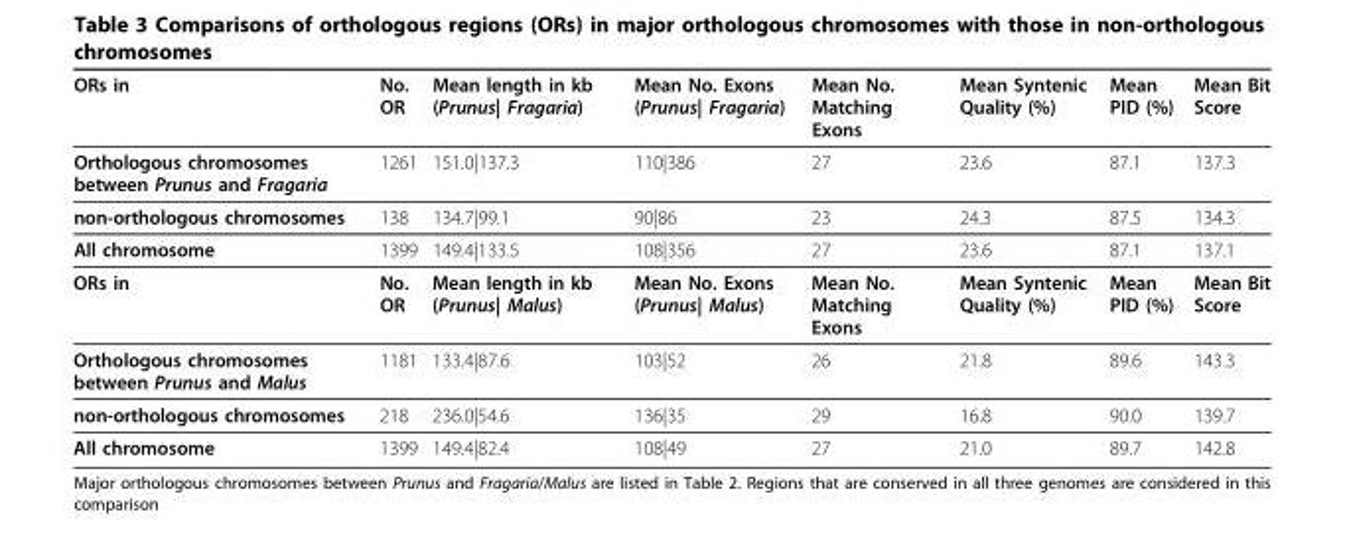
<table><thead><tr><td>ORs in</td><td>No. OR</td><td>Mean length in kb (Prunus| Fragaria)</td><td>Mean No. Exons (Prunus| Fragaria)</td><td>Mean No. Matching Exons</td><td>Mean Syntenic Quality (%)</td><td>Mean PID (%)</td><td>Mean Bit Score</td></tr></thead><tbody><tr><td>Orthologous chromosomes between Prunus and Fragaria</td><td>1261</td><td>151.0|137.3</td><td>110|386</td><td>27</td><td>23.6</td><td>87.1</td><td>137.3</td></tr><tr><td>non-orthologous chromosomes</td><td>138</td><td>134.7|99.1</td><td>90|86</td><td>23</td><td>24.3</td><td>87.5</td><td>134.3</td></tr><tr><td>All chromosome</td><td>1399</td><td>149.4|133.5</td><td>108|356</td><td>27</td><td>23.6</td><td>87.1</td><td>137.1</td></tr><tr><td>ORs in</td><td>No. OR</td><td>Mean length in kb (Prunus| Malus)</td><td>Mean No. Exons (Prunus| Malus)</td><td>Mean No. Matching Exons</td><td>Mean Syntenic Quality (%)</td><td>Mean PID (%)</td><td>Mean Bit Score</td></tr><tr><td>Orthologous chromosomes between Prunus and Malus</td><td>1181</td><td>133.4|87.6</td><td>103|52</td><td>26</td><td>21.8</td><td>89.6</td><td>143.3</td></tr><tr><td>non-orthologous chromosomes</td><td>218</td><td>236.0|54.6</td><td>136|35</td><td>29</td><td>16.8</td><td>90.0</td><td>139.7</td></tr><tr><td>All chromosome</td><td>1399</td><td>149.4|82.4</td><td>108|49</td><td>27</td><td>21.0</td><td>89.7</td><td>142.8</td></tr></tbody></table>